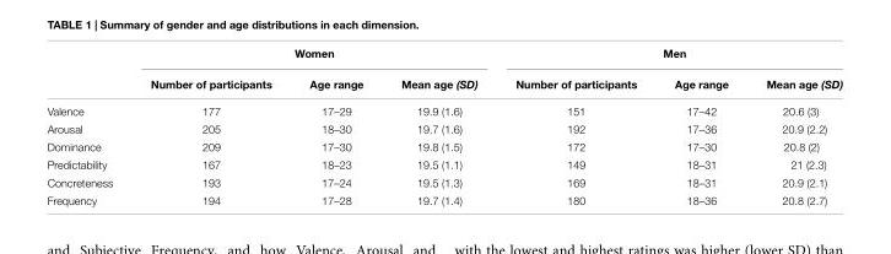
<table><thead><tr><td rowspan="2"></td><td colspan="3">Women</td><td colspan="3">Men</td></tr><tr><td>Number of participants</td><td>Age range</td><td>Mean age (SD)</td><td>Number of participants</td><td>Age range</td><td>Mean age (SD)</td></tr></thead><tbody><tr><td>Valence</td><td>177</td><td>17–29</td><td>19.9 (1.6)</td><td>151</td><td>17–42</td><td>20.6 (3)</td></tr><tr><td>Arousal</td><td>205</td><td>18–30</td><td>19.7 (1.6)</td><td>192</td><td>17–36</td><td>20.9 (2.2)</td></tr><tr><td>Dominance</td><td>209</td><td>17–30</td><td>19.8 (1.5)</td><td>172</td><td>17–30</td><td>20.8 (2)</td></tr><tr><td>Predictability</td><td>167</td><td>18–23</td><td>19.5 (1.1)</td><td>149</td><td>18–31</td><td>21 (2.3)</td></tr><tr><td>Concreteness</td><td>193</td><td>17–24</td><td>19.5 (1.3)</td><td>169</td><td>18–31</td><td>20.9 (2.1)</td></tr><tr><td>Frequency</td><td>194</td><td>17–28</td><td>19.7 (1.4)</td><td>180</td><td>18–36</td><td>20.8 (2.7)</td></tr></tbody></table>